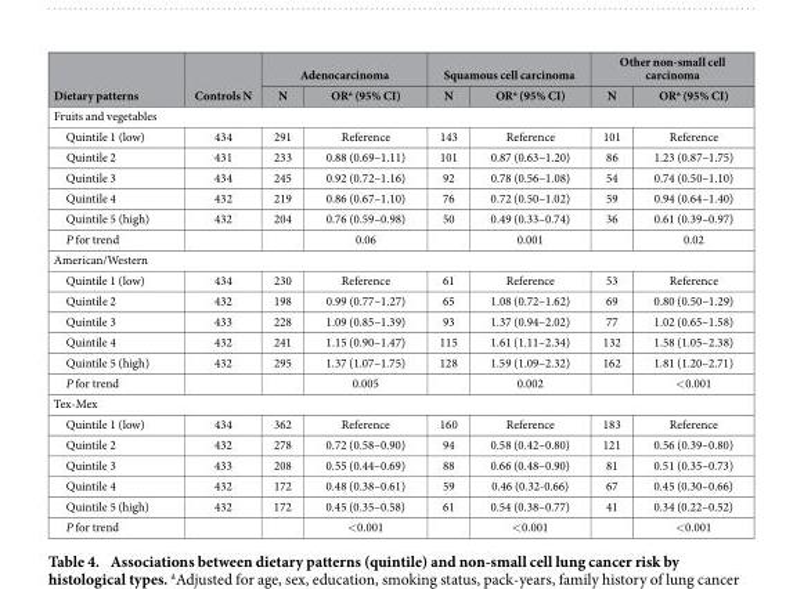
<table><thead><tr><td rowspan="2">Dietary patterns</td><td rowspan="2">Controls N</td><td colspan="2">Adenocarcinoma</td><td colspan="2">Squamous cell carcinoma</td><td colspan="2">Other non-small cell carcinoma</td></tr><tr><td>N</td><td>OR<sup>a</sup> (95% CI)</td><td>N</td><td>OR<sup>a</sup> (95% CI)</td><td>N</td><td>OR<sup>a</sup> (95% CI)</td></tr></thead><tbody><tr><td colspan="8">Fruits and vegetables</td></tr><tr><td>Quintile 1 (low)</td><td>434</td><td>291</td><td>Reference</td><td>143</td><td>Reference</td><td>101</td><td>Reference</td></tr><tr><td>Quintile 2</td><td>431</td><td>233</td><td>0.88 (0.69–1.11)</td><td>101</td><td>0.87 (0.63–1.20)</td><td>86</td><td>1.23 (0.87–1.75)</td></tr><tr><td>Quintile 3</td><td>434</td><td>245</td><td>0.92 (0.72–1.16)</td><td>92</td><td>0.78 (0.56–1.08)</td><td>54</td><td>0.74 (0.50–1.10)</td></tr><tr><td>Quintile 4</td><td>432</td><td>219</td><td>0.86 (0.67–1.10)</td><td>76</td><td>0.72 (0.50–1.02)</td><td>59</td><td>0.94 (0.64–1.40)</td></tr><tr><td>Quintile 5 (high)</td><td>432</td><td>204</td><td>0.76 (0.59–0.98)</td><td>50</td><td>0.49 (0.33–0.74)</td><td>36</td><td>0.61 (0.39–0.97)</td></tr><tr><td>P for trend</td><td></td><td></td><td>0.06</td><td></td><td>0.001</td><td></td><td>0.02</td></tr><tr><td colspan="8">American/Western</td></tr><tr><td>Quintile 1 (low)</td><td>434</td><td>230</td><td>Reference</td><td>61</td><td>Reference</td><td>53</td><td>Reference</td></tr><tr><td>Quintile 2</td><td>432</td><td>198</td><td>0.99 (0.77–1.27)</td><td>65</td><td>1.08 (0.72–1.62)</td><td>69</td><td>0.80 (0.50–1.29)</td></tr><tr><td>Quintile 3</td><td>433</td><td>228</td><td>1.09 (0.85–1.39)</td><td>93</td><td>1.37 (0.94–2.02)</td><td>77</td><td>1.02 (0.65–1.58)</td></tr><tr><td>Quintile 4</td><td>432</td><td>241</td><td>1.15 (0.90–1.47)</td><td>115</td><td>1.61 (1.11–2.34)</td><td>132</td><td>1.58 (1.05–2.38)</td></tr><tr><td>Quintile 5 (high)</td><td>432</td><td>295</td><td>1.37 (1.07–1.75)</td><td>128</td><td>1.59 (1.09–2.32)</td><td>162</td><td>1.81 (1.20–2.71)</td></tr><tr><td>P for trend</td><td></td><td></td><td>0.005</td><td></td><td>0.002</td><td></td><td>&lt;0.001</td></tr><tr><td colspan="8">Tex-Mex</td></tr><tr><td>Quintile 1 (low)</td><td>434</td><td>362</td><td>Reference</td><td>160</td><td>Reference</td><td>183</td><td>Reference</td></tr><tr><td>Quintile 2</td><td>432</td><td>278</td><td>0.72 (0.58–0.90)</td><td>94</td><td>0.58 (0.42–0.80)</td><td>121</td><td>0.56 (0.39–0.80)</td></tr><tr><td>Quintile 3</td><td>433</td><td>208</td><td>0.55 (0.44–0.69)</td><td>88</td><td>0.66 (0.48–0.90)</td><td>81</td><td>0.51 (0.35–0.73)</td></tr><tr><td>Quintile 4</td><td>432</td><td>172</td><td>0.48 (0.38–0.61)</td><td>59</td><td>0.46 (0.32-0.66)</td><td>67</td><td>0.45 (0.30–0.66)</td></tr><tr><td>Quintile 5 (high)</td><td>432</td><td>172</td><td>0.45 (0.35–0.58)</td><td>61</td><td>0.54 (0.38–0.77)</td><td>41</td><td>0.34 (0.22–0.52)</td></tr><tr><td>P for trend</td><td></td><td></td><td>&lt;0.001</td><td></td><td>&lt;0.001</td><td></td><td>&lt;0.001</td></tr></tbody></table>